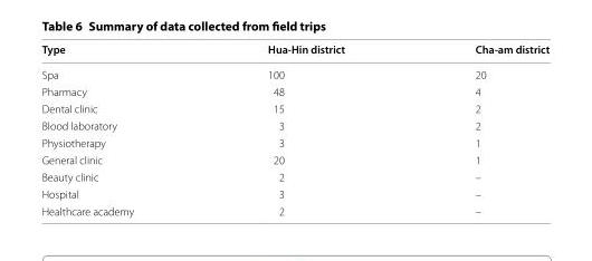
<table><thead><tr><td>Type</td><td>Hua-Hin district</td><td>Cha-am district</td></tr></thead><tbody><tr><td>Spa</td><td>100</td><td>20</td></tr><tr><td>Pharmacy</td><td>48</td><td>4</td></tr><tr><td>Dental clinic</td><td>15</td><td>2</td></tr><tr><td>Blood laboratory</td><td>3</td><td>2</td></tr><tr><td>Physiotherapy</td><td>3</td><td>1</td></tr><tr><td>General clinic</td><td>20</td><td>1</td></tr><tr><td>Beauty clinic</td><td>2</td><td>–</td></tr><tr><td>Hospital</td><td>3</td><td>–</td></tr><tr><td>Healthcare academy</td><td>2</td><td>–</td></tr></tbody></table>